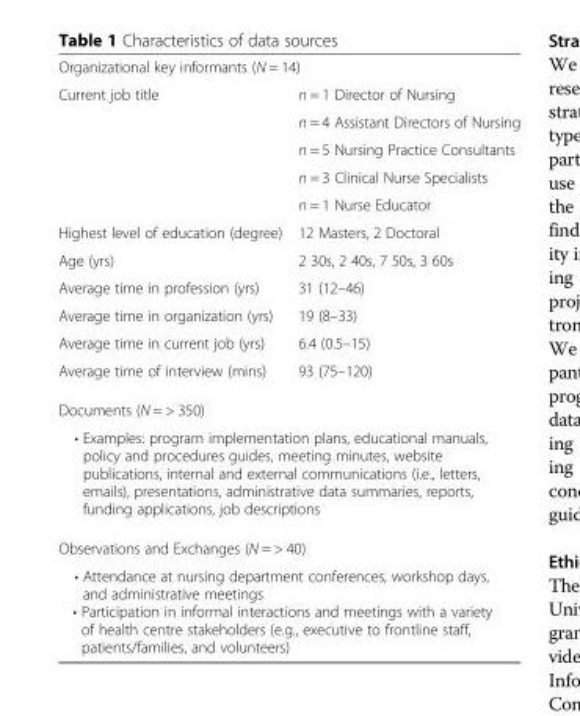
<table><tbody><tr><td colspan="2">Organizational key informants (N = 14)</td></tr><tr><td rowspan="5">Current job title</td><td>n = 1 Director of Nursing</td></tr><tr><td>n = 4 Assistant Directors of Nursing</td></tr><tr><td>n = 5 Nursing Practice Consultants</td></tr><tr><td>n = 3 Clinical Nurse Specialists</td></tr><tr><td>n = 1 Nurse Educator</td></tr><tr><td>Highest level of education (degree)</td><td>12 Masters, 2 Doctoral</td></tr><tr><td>Age (yrs)</td><td>2 30s, 2 40s, 7 50s, 3 60s</td></tr><tr><td>Average time in profession (yrs)</td><td>31 (12–46)</td></tr><tr><td>Average time in organization (yrs)</td><td>19 (8–33)</td></tr><tr><td>Average time in current job (yrs)</td><td>6.4 (0.5–15)</td></tr><tr><td>Average time of interview (mins)</td><td>93 (75–120)</td></tr><tr><td colspan="2">Documents (N = &gt; 350)</td></tr><tr><td colspan="2">• Examples: program implementation plans, educational manuals, policy and procedures guides, meeting minutes, website publications, internal and external communications (i.e., letters, emails), presentations, administrative data summaries, reports, funding applications, job descriptions</td></tr><tr><td colspan="2">Observations and Exchanges (N = &gt; 40)</td></tr><tr><td colspan="2">• Attendance at nursing department conferences, workshop days, and administrative meetings • Participation in informal interactions and meetings with a variety of health centre stakeholders (e.g., executive to frontline staff, patients/families, and volunteers)</td></tr></tbody></table>